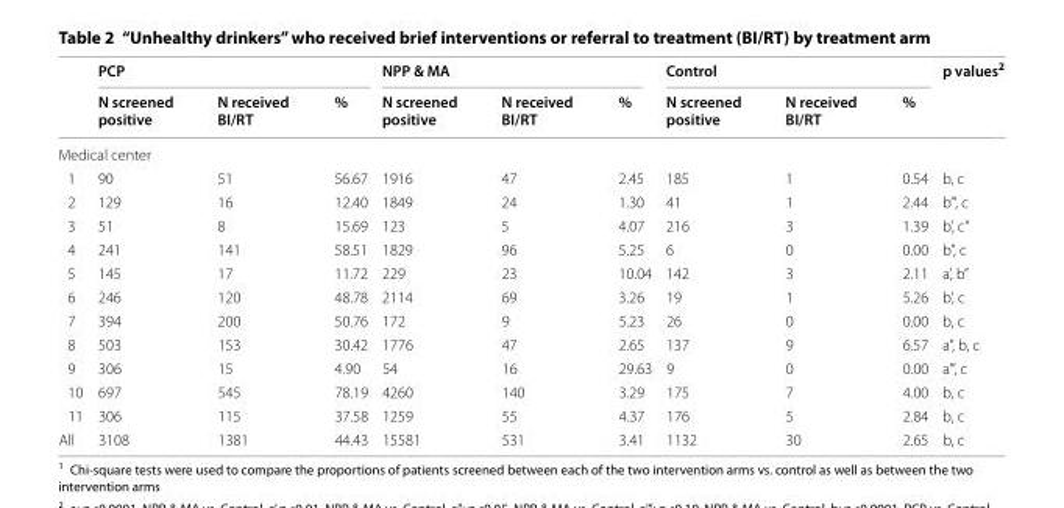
<table><thead><tr><td rowspan="2"></td><td colspan="3">PCP</td><td colspan="3">NPP &amp; MA</td><td colspan="3">Control</td><td rowspan="2">p values<sup>2</sup></td></tr><tr><td>N screened positive</td><td>N received BI/RT</td><td>%</td><td>N screened positive</td><td>N received BI/RT</td><td>%</td><td>N screened positive</td><td>N received BI/RT</td><td>%</td></tr></thead><tbody><tr><td colspan="11">Medical center</td></tr><tr><td>1</td><td>90</td><td>51</td><td>56.67</td><td>1916</td><td>47</td><td>2.45</td><td>185</td><td>1</td><td>0.54</td><td>b, c</td></tr><tr><td>2</td><td>129</td><td>16</td><td>12.40</td><td>1849</td><td>24</td><td>1.30</td><td>41</td><td>1</td><td>2.44</td><td>b’’’, c</td></tr><tr><td>3</td><td>51</td><td>8</td><td>15.69</td><td>123</td><td>5</td><td>4.07</td><td>216</td><td>3</td><td>1.39</td><td>b’, c’’</td></tr><tr><td>4</td><td>241</td><td>141</td><td>58.51</td><td>1829</td><td>96</td><td>5.25</td><td>6</td><td>0</td><td>0.00</td><td>b’’, c</td></tr><tr><td>5</td><td>145</td><td>17</td><td>11.72</td><td>229</td><td>23</td><td>10.04</td><td>142</td><td>3</td><td>2.11</td><td>a’, b’’</td></tr><tr><td>6</td><td>246</td><td>120</td><td>48.78</td><td>2114</td><td>69</td><td>3.26</td><td>19</td><td>1</td><td>5.26</td><td>b’, c</td></tr><tr><td>7</td><td>394</td><td>200</td><td>50.76</td><td>172</td><td>9</td><td>5.23</td><td>26</td><td>0</td><td>0.00</td><td>b, c</td></tr><tr><td>8</td><td>503</td><td>153</td><td>30.42</td><td>1776</td><td>47</td><td>2.65</td><td>137</td><td>9</td><td>6.57</td><td>a’’, b, c</td></tr><tr><td>9</td><td>306</td><td>15</td><td>4.90</td><td>54</td><td>16</td><td>29.63</td><td>9</td><td>0</td><td>0.00</td><td>a’’’, c</td></tr><tr><td>10</td><td>697</td><td>545</td><td>78.19</td><td>4260</td><td>140</td><td>3.29</td><td>175</td><td>7</td><td>4.00</td><td>b, c</td></tr><tr><td>11</td><td>306</td><td>115</td><td>37.58</td><td>1259</td><td>55</td><td>4.37</td><td>176</td><td>5</td><td>2.84</td><td>b, c</td></tr><tr><td>All</td><td>3108</td><td>1381</td><td>44.43</td><td>15581</td><td>531</td><td>3.41</td><td>1132</td><td>30</td><td>2.65</td><td>b, c</td></tr></tbody></table>